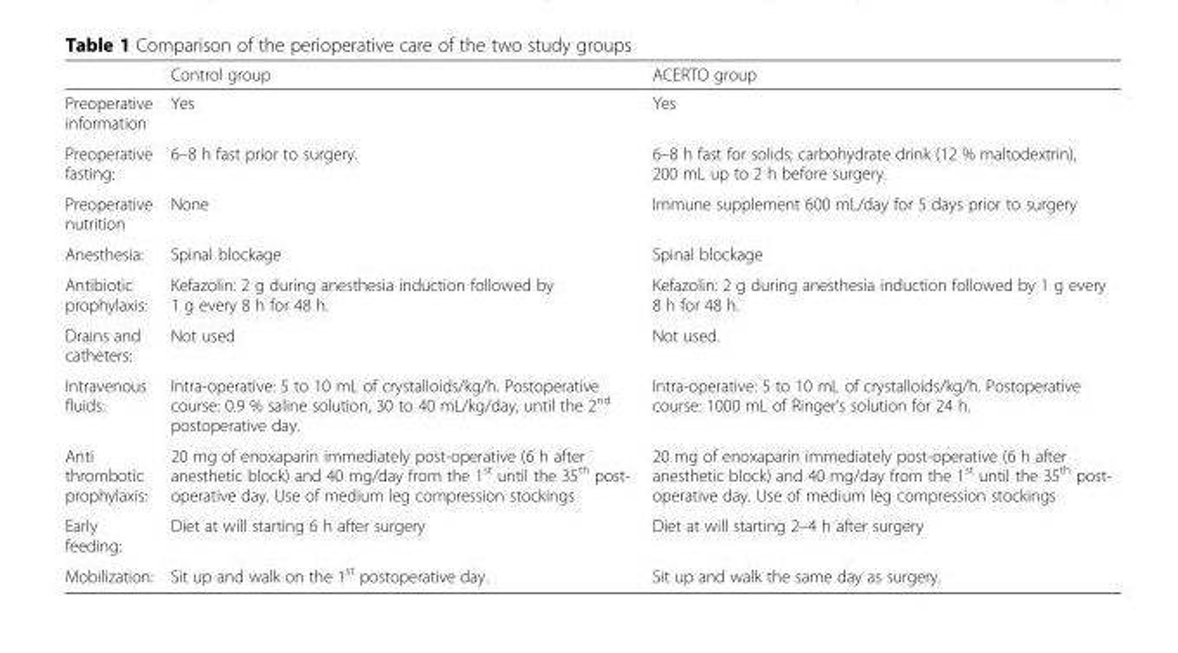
<table><thead><tr><td></td><td>Control group</td><td>ACERTO group</td></tr></thead><tbody><tr><td>Preoperative information</td><td>Yes</td><td>Yes</td></tr><tr><td>Preoperative fasting:</td><td>6–8 h fast prior to surgery.</td><td>6–8 h fast for solids; carbohydrate drink (12 % maltodextrin), 200 mL up to 2 h before surgery.</td></tr><tr><td>Preoperative nutrition</td><td>None</td><td>Immune supplement 600 mL/day for 5 days prior to surgery</td></tr><tr><td>Anesthesia:</td><td>Spinal blockage</td><td>Spinal blockage</td></tr><tr><td>Antibiotic prophylaxis:</td><td>Kefazolin: 2 g during anesthesia induction followed by 1 g every 8 h for 48 h.</td><td>Kefazolin: 2 g during anesthesia induction followed by 1 g every 8 h for 48 h.</td></tr><tr><td>Drains and catheters:</td><td>Not used</td><td>Not used.</td></tr><tr><td>Intravenous fluids:</td><td>Intra-operative: 5 to 10 mL of crystalloids/kg/h. Postoperative course: 0.9 % saline solution, 30 to 40 mL/kg/day, until the 2<sup>nd</sup> postoperative day.</td><td>Intra-operative: 5 to 10 mL of crystalloids/kg/h. Postoperative course: 1000 mL of Ringer’s solution for 24 h.</td></tr><tr><td>Anti thrombotic prophylaxis:</td><td>20 mg of enoxaparin immediately post-operative (6 h after anesthetic block) and 40 mg/day from the 1st until the 35th post- operative day. Use of medium leg compression stockings</td><td>20 mg of enoxaparin immediately post-operative (6 h after anesthetic block) and 40 mg/day from the 1st until the 35th post- operative day. Use of medium leg compression stockings</td></tr><tr><td>Early feeding:</td><td>Diet at will starting 6 h after surgery</td><td>Diet at will starting 2–4 h after surgery</td></tr><tr><td>Mobilization:</td><td>Sit up and walk on the 1<sup>st</sup> postoperative day.</td><td>Sit up and walk the same day as surgery.</td></tr></tbody></table>